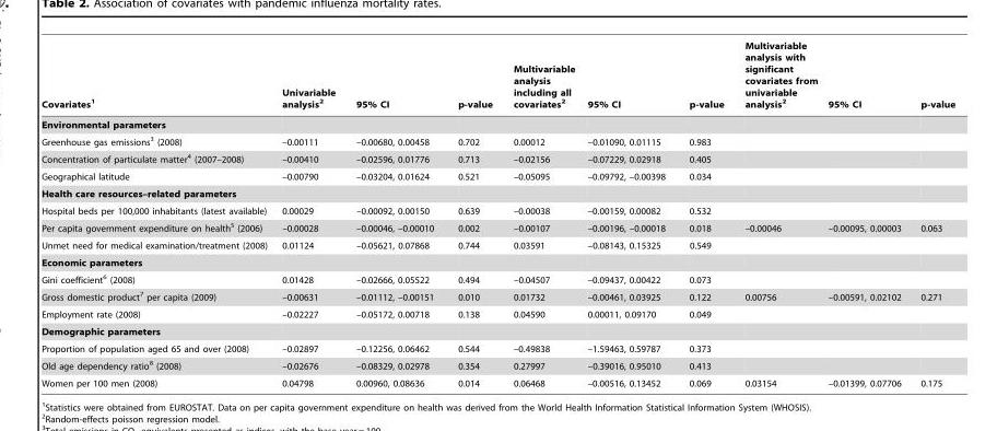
<table><thead><tr><td>Covariates<sup>1</sup></td><td>Univariable analysis<sup>2</sup></td><td>95% CI</td><td>p-value</td><td>Multivariable analysis including all covariates<sup>2</sup></td><td>95% CI</td><td>p-value</td><td>Multivariable analysis with significant covariates from univariable analysis<sup>2</sup></td><td>95% CI</td><td>p-value</td></tr></thead><tbody><tr><td colspan="10">Environmental parameters</td></tr><tr><td>Greenhouse gas emissions<sup>3</sup> (2008)</td><td>–0.00111</td><td>–0.00680, 0.00458</td><td>0.702</td><td>0.00012</td><td>–0.01090, 0.01115</td><td>0.983</td><td></td><td></td><td></td></tr><tr><td>Concentration of particulate matter<sup>4</sup> (2007–2008)</td><td>–0.00410</td><td>–0.02596, 0.01776</td><td>0.713</td><td>–0.02156</td><td>–0.07229, 0.02918</td><td>0.405</td><td></td><td></td><td></td></tr><tr><td>Geographical latitude</td><td>–0.00790</td><td>–0.03204, 0.01624</td><td>0.521</td><td>–0.05095</td><td>–0.09792, –0.00398</td><td>0.034</td><td></td><td></td><td></td></tr><tr><td colspan="10">Health care resources–related parameters</td></tr><tr><td>Hospital beds per 100,000 inhabitants (latest available)</td><td>0.00029</td><td>–0.00092, 0.00150</td><td>0.639</td><td>–0.00038</td><td>–0.00159, 0.00082</td><td>0.532</td><td></td><td></td><td></td></tr><tr><td>Per capita government expenditure on health<sup>5</sup> (2006)</td><td>–0.00028</td><td>–0.00046, –0.00010</td><td>0.002</td><td>–0.00107</td><td>–0.00196, –0.00018</td><td>0.018</td><td>–0.00046</td><td>–0.00095, 0.00003</td><td>0.063</td></tr><tr><td>Unmet need for medical examination/treatment (2008)</td><td>0.01124</td><td>–0.05621, 0.07868</td><td>0.744</td><td>0.03591</td><td>–0.08143, 0.15325</td><td>0.549</td><td></td><td></td><td></td></tr><tr><td colspan="10">Economic parameters</td></tr><tr><td>Gini coefficient<sup>6</sup> (2008)</td><td>0.01428</td><td>–0.02666, 0.05522</td><td>0.494</td><td>–0.04507</td><td>–0.09437, 0.00422</td><td>0.073</td><td></td><td></td><td></td></tr><tr><td>Gross domestic product<sup>7</sup> per capita (2009)</td><td>–0.00631</td><td>–0.01112, –0.00151</td><td>0.010</td><td>0.01732</td><td>–0.00461, 0.03925</td><td>0.122</td><td>0.00756</td><td>–0.00591, 0.02102</td><td>0.271</td></tr><tr><td>Employment rate (2008)</td><td>–0.02227</td><td>–0.05172, 0.00718</td><td>0.138</td><td>0.04590</td><td>0.00011, 0.09170</td><td>0.049</td><td></td><td></td><td></td></tr><tr><td colspan="10">Demographic parameters</td></tr><tr><td>Proportion of population aged 65 and over (2008)</td><td>–0.02897</td><td>–0.12256, 0.06462</td><td>0.544</td><td>–0.49838</td><td>–1.59463, 0.59787</td><td>0.373</td><td></td><td></td><td></td></tr><tr><td>Old age dependency ratio<sup>8</sup> (2008)</td><td>–0.02676</td><td>–0.08329, 0.02978</td><td>0.354</td><td>0.27997</td><td>–0.39016, 0.95010</td><td>0.413</td><td></td><td></td><td></td></tr><tr><td>Women per 100 men (2008)</td><td>0.04798</td><td>0.00960, 0.08636</td><td>0.014</td><td>0.06468</td><td>–0.00516, 0.13452</td><td>0.069</td><td>0.03154</td><td>–0.01399, 0.07706</td><td>0.175</td></tr></tbody></table>